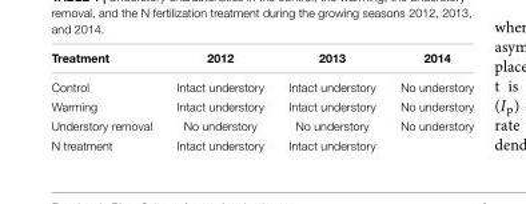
<table><thead><tr><td>Treatment</td><td>2012</td><td>2013</td><td>2014</td></tr></thead><tbody><tr><td>Control</td><td>Intact understory</td><td>Intact understory</td><td>No understory</td></tr><tr><td>Warming</td><td>Intact understory</td><td>Intact understory</td><td>No understory</td></tr><tr><td>Understory removal</td><td>No understory</td><td>No understory</td><td>No understory</td></tr><tr><td>N treatment</td><td>Intact understory</td><td>Intact understory</td><td></td></tr></tbody></table>